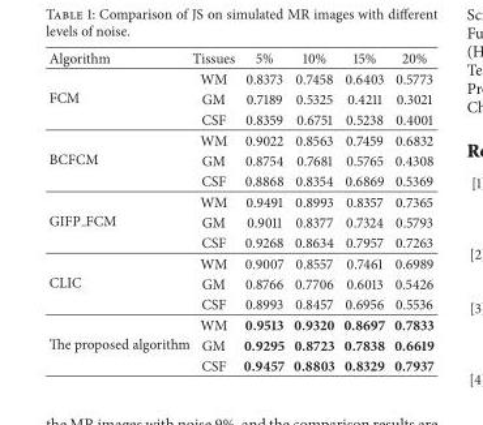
<table><thead><tr><td>Algorithm</td><td>Tissues</td><td>5%</td><td>10%</td><td>15%</td><td>20%</td></tr></thead><tbody><tr><td rowspan="3">FCM</td><td>WM</td><td>0.8373</td><td>0.7458</td><td>0.6403</td><td>0.5773</td></tr><tr><td>GM</td><td>0.7189</td><td>0.5325</td><td>0.4211</td><td>0.3021</td></tr><tr><td>CSF</td><td>0.8359</td><td>0.6751</td><td>0.5238</td><td>0.4001</td></tr><tr><td rowspan="3">BCFCM</td><td>WM</td><td>0.9022</td><td>0.8563</td><td>0.7459</td><td>0.6832</td></tr><tr><td>GM</td><td>0.8754</td><td>0.7681</td><td>0.5765</td><td>0.4308</td></tr><tr><td>CSF</td><td>0.8868</td><td>0.8354</td><td>0.6869</td><td>0.5369</td></tr><tr><td rowspan="3">GIFP FCM</td><td>WM</td><td>0.9491</td><td>0.8993</td><td>0.8357</td><td>0.7365</td></tr><tr><td>GM</td><td>0.9011</td><td>0.8377</td><td>0.7324</td><td>0.5793</td></tr><tr><td>CSF</td><td>0.9268</td><td>0.8634</td><td>0.7957</td><td>0.7263</td></tr><tr><td rowspan="3">CLIC</td><td>WM</td><td>0.9007</td><td>0.8557</td><td>0.7461</td><td>0.6989</td></tr><tr><td>GM</td><td>0.8766</td><td>0.7706</td><td>0.6013</td><td>0.5426</td></tr><tr><td>CSF</td><td>0.8993</td><td>0.8457</td><td>0.6956</td><td>0.5536</td></tr><tr><td rowspan="3">The proposed algorithm</td><td>WM</td><td>0.9513</td><td>0.9320</td><td>0.8697</td><td>0.7833</td></tr><tr><td>GM</td><td>0.9295</td><td>0.8723</td><td>0.7838</td><td>0.6619</td></tr><tr><td>CSF</td><td>0.9457</td><td>0.8803</td><td>0.8329</td><td>0.7937</td></tr></tbody></table>